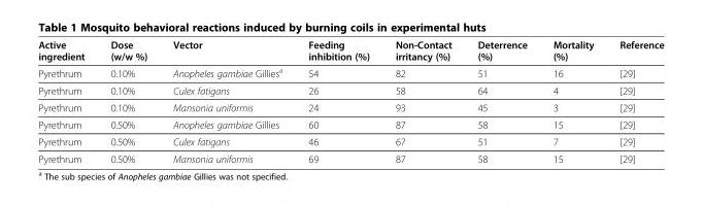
<table><thead><tr><td>Active ingredient</td><td>Dose (w/w %)</td><td>Vector</td><td>Feeding inhibition (%)</td><td>Non-Contact irritancy (%)</td><td>Deterrence (%)</td><td>Mortality (%)</td><td>Reference</td></tr></thead><tbody><tr><td>Pyrethrum</td><td>0.10%</td><td>Anopheles gambiae Gillies<sup>a</sup></td><td>54</td><td>82</td><td>51</td><td>16</td><td>[29]</td></tr><tr><td>Pyrethrum</td><td>0.10%</td><td>Culex fatigans</td><td>26</td><td>58</td><td>64</td><td>4</td><td>[29]</td></tr><tr><td>Pyrethrum</td><td>0.10%</td><td>Mansonia uniformis</td><td>24</td><td>93</td><td>45</td><td>3</td><td>[29]</td></tr><tr><td>Pyrethrum</td><td>0.50%</td><td>Anopheles gambiae Gillies</td><td>60</td><td>87</td><td>58</td><td>15</td><td>[29]</td></tr><tr><td>Pyrethrum</td><td>0.50%</td><td>Culex fatigans</td><td>46</td><td>67</td><td>51</td><td>7</td><td>[29]</td></tr><tr><td>Pyrethrum</td><td>0.50%</td><td>Mansonia uniformis</td><td>69</td><td>87</td><td>58</td><td>15</td><td>[29]</td></tr></tbody></table>